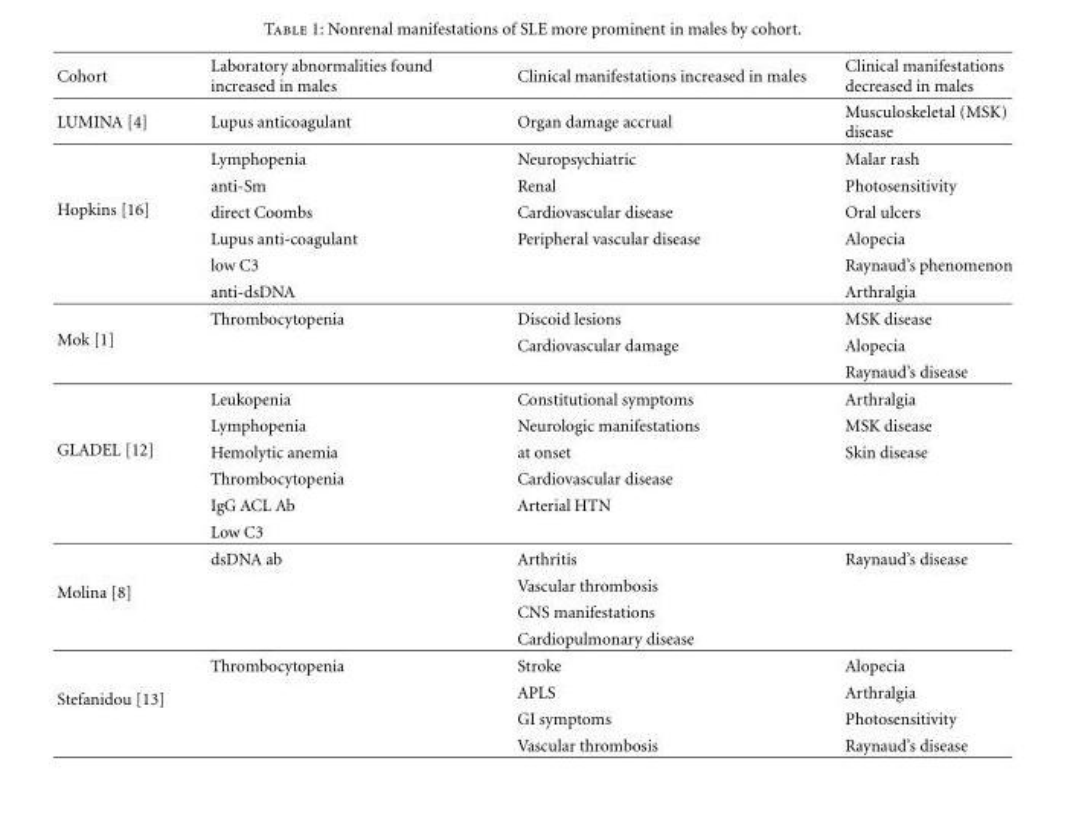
<table><thead><tr><td>Cohort</td><td>Laboratory abnormalities found increased in males</td><td>Clinical manifestations increased in males</td><td>Clinical manifestations decreased in males</td></tr></thead><tbody><tr><td>LUMINA [4]</td><td>Lupus anticoagulant</td><td>Organ damage accrual</td><td>Musculoskeletal (MSK) disease</td></tr><tr><td rowspan="6">Hopkins [16]</td><td>Lymphopenia</td><td>Neuropsychiatric</td><td>Malar rash</td></tr><tr><td>anti-Sm</td><td>Renal</td><td>Photosensitivity</td></tr><tr><td>direct Coombs</td><td>Cardiovascular disease</td><td>Oral ulcers</td></tr><tr><td>Lupus anti-coagulant</td><td>Peripheral vascular disease</td><td>Alopecia</td></tr><tr><td>low C3</td><td></td><td>Raynaud’s phenomenon</td></tr><tr><td>anti-dsDNA</td><td></td><td>Arthralgia</td></tr><tr><td rowspan="3">Mok [1]</td><td>Thrombocytopenia</td><td>Discoid lesions</td><td>MSK disease</td></tr><tr><td></td><td>Cardiovascular damage</td><td>Alopecia</td></tr><tr><td></td><td></td><td>Raynaud’s disease</td></tr><tr><td rowspan="6">GLADEL [12]</td><td>Leukopenia</td><td>Constitutional symptoms</td><td>Arthralgia</td></tr><tr><td>Lymphopenia</td><td>Neurologic manifestations</td><td>MSK disease</td></tr><tr><td>Hemolytic anemia</td><td>at onset</td><td>Skin disease</td></tr><tr><td>Thrombocytopenia</td><td>Cardiovascular disease</td><td></td></tr><tr><td>IgG ACL Ab</td><td>Arterial HTN</td><td></td></tr><tr><td>Low C3</td><td></td><td></td></tr><tr><td rowspan="4">Molina [8]</td><td>dsDNA ab</td><td>Arthritis</td><td>Raynaud’s disease</td></tr><tr><td></td><td>Vascular thrombosis</td><td></td></tr><tr><td></td><td>CNS manifestations</td><td></td></tr><tr><td></td><td>Cardiopulmonary disease</td><td></td></tr><tr><td rowspan="4">Stefanidou [13]</td><td>Thrombocytopenia</td><td>Stroke</td><td>Alopecia</td></tr><tr><td></td><td>APLS</td><td>Arthralgia</td></tr><tr><td></td><td>GI symptoms</td><td>Photosensitivity</td></tr><tr><td></td><td>Vascular thrombosis</td><td>Raynaud’s disease</td></tr></tbody></table>